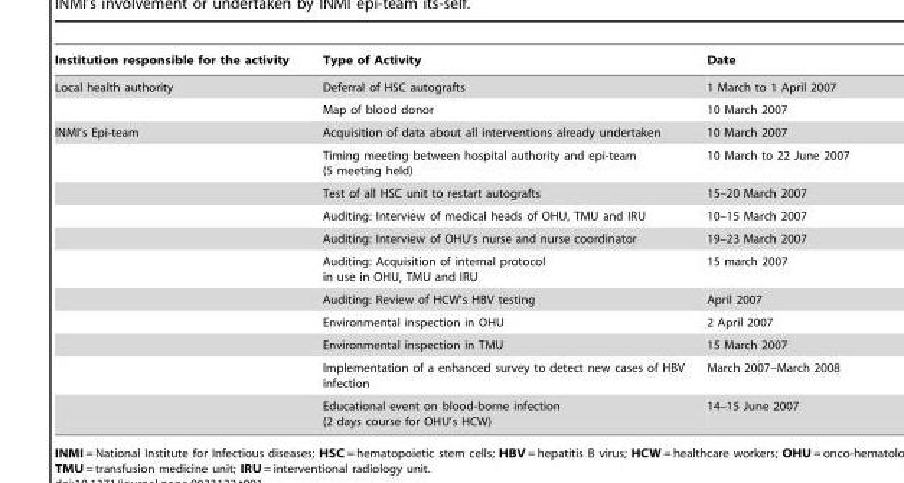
<table><thead><tr><td>Institution responsible for the activity</td><td>Type of Activity</td><td>Date</td></tr></thead><tbody><tr><td rowspan="2">Local health authority</td><td>Deferral of HSC autografts</td><td>1 March to 1 April 2007</td></tr><tr><td>Map of blood donor</td><td>10 March 2007</td></tr><tr><td rowspan="11">INMI’s Epi-team</td><td>Acquisition of data about all interventions already undertaken</td><td>10 March 2007</td></tr><tr><td>Timing meeting between hospital authority and epi-team (5 meeting held)</td><td>10 March to 22 June 2007</td></tr><tr><td>Test of all HSC unit to restart autografts</td><td>15–20 March 2007</td></tr><tr><td>Auditing: Interview of medical heads of OHU, TMU and IRU</td><td>10–15 March 2007</td></tr><tr><td>Auditing: Interview of OHU’s nurse and nurse coordinator</td><td>19–23 March 2007</td></tr><tr><td>Auditing: Acquisition of internal protocol in use in OHU, TMU and IRU</td><td>15 march 2007</td></tr><tr><td>Auditing: Review of HCW’s HBV testing</td><td>April 2007</td></tr><tr><td>Environmental inspection in OHU</td><td>2 April 2007</td></tr><tr><td>Environmental inspection in TMU</td><td>15 March 2007</td></tr><tr><td>Implementation of a enhanced survey to detect new cases of HBV infection</td><td>March 2007–March 2008</td></tr><tr><td>Educational event on blood-borne infection (2 days course for OHU’s HCW)</td><td>14–15 June 2007</td></tr></tbody></table>